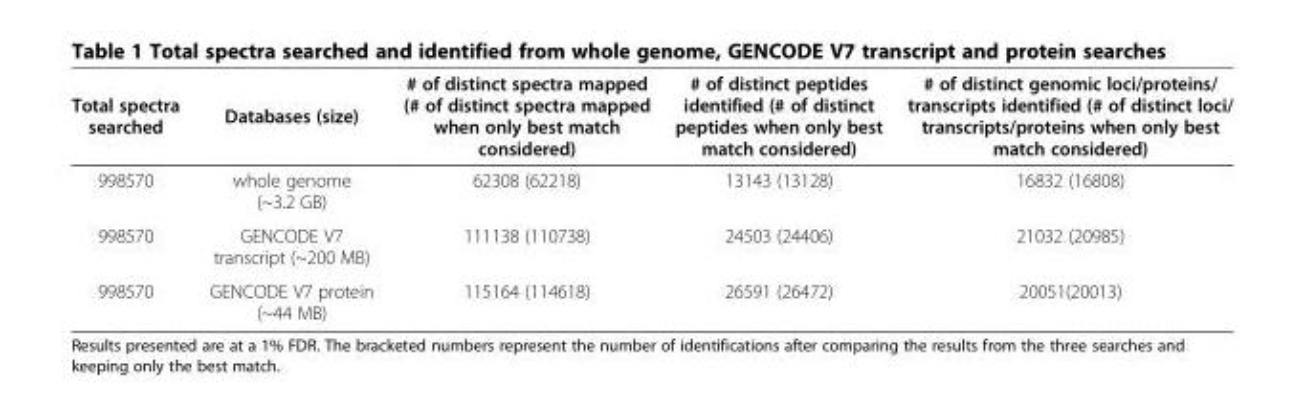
<table><thead><tr><td>Total spectra searched</td><td>Databases (size)</td><td># of distinct spectra mapped (# of distinct spectra mapped when only best match considered)</td><td># of distinct peptides identified (# of distinct peptides when only best match considered)</td><td># of distinct genomic loci/proteins/ transcripts identified (# of distinct loci/ transcripts/proteins when only best match considered)</td></tr></thead><tbody><tr><td>998570</td><td>whole genome (~3.2 GB)</td><td>62308 (62218)</td><td>13143 (13128)</td><td>16832 (16808)</td></tr><tr><td>998570</td><td>GENCODE V7 transcript (~200 MB)</td><td>111138 (110738)</td><td>24503 (24406)</td><td>21032 (20985)</td></tr><tr><td>998570</td><td>GENCODE V7 protein (~44 MB)</td><td>115164 (114618)</td><td>26591 (26472)</td><td>20051(20013)</td></tr></tbody></table>